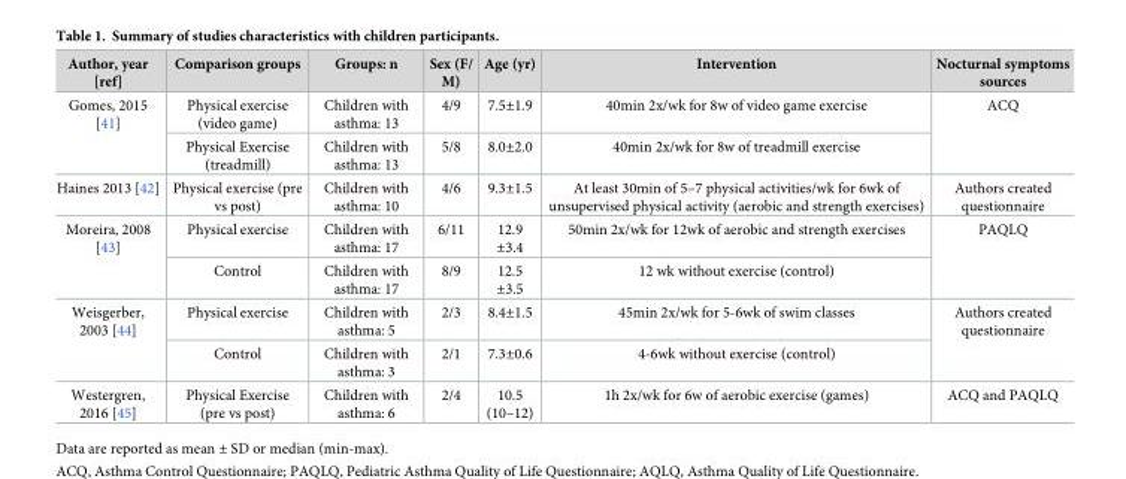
<table><thead><tr><td>Author, year [ref]</td><td>Comparison groups</td><td>Groups: n</td><td>Sex (F/ M)</td><td>Age (yr)</td><td>Intervention</td><td>Nocturnal symptoms sources</td></tr></thead><tbody><tr><td rowspan="2">Gomes, 2015 [41]</td><td>Physical exercise (video game)</td><td>Children with asthma: 13</td><td>4/9</td><td>7.5±1.9</td><td>40min 2x/wk for 8w of video game exercise</td><td rowspan="2">ACQ</td></tr><tr><td>Physical Exercise (treadmill)</td><td>Children with asthma: 13</td><td>5/8</td><td>8.0±2.0</td><td>40min 2x/wk for 8w of treadmill exercise</td></tr><tr><td>Haines 2013 [42]</td><td>Physical exercise (pre vs post)</td><td>Children with asthma: 10</td><td>4/6</td><td>9.3±1.5</td><td>At least 30min of 5–7 physical activities/wk for 6wk of unsupervised physical activity (aerobic and strength exercises)</td><td>Authors created questionnaire</td></tr><tr><td rowspan="2">Moreira, 2008 [43]</td><td>Physical exercise</td><td>Children with asthma: 17</td><td>6/11</td><td>12.9 ±3.4</td><td>50min 2x/wk for 12wk of aerobic and strength exercises</td><td rowspan="2">PAQLQ</td></tr><tr><td>Control</td><td>Children with asthma: 17</td><td>8/9</td><td>12.5 ±3.5</td><td>12 wk without exercise (control)</td></tr><tr><td rowspan="2">Weisgerber, 2003 [44]</td><td>Physical exercise</td><td>Children with asthma: 5</td><td>2/3</td><td>8.4±1.5</td><td>45min 2x/wk for 5-6wk of swim classes</td><td rowspan="2">Authors created questionnaire</td></tr><tr><td>Control</td><td>Children with asthma: 3</td><td>2/1</td><td>7.3±0.6</td><td>4-6wk without exercise (control)</td></tr><tr><td>Westergren, 2016 [45]</td><td>Physical Exercise (pre vs post)</td><td>Children with asthma: 6</td><td>2/4</td><td>10.5 (10–12)</td><td>1h 2x/wk for 6w of aerobic exercise (games)</td><td>ACQ and PAQLQ</td></tr></tbody></table>